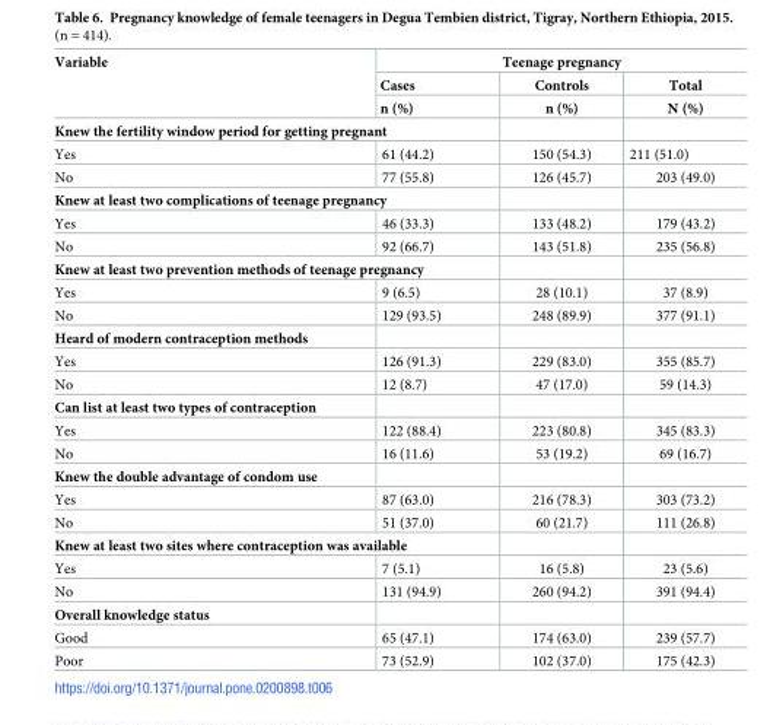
<table><thead><tr><td rowspan="3">Variable</td><td colspan="3">Teenage pregnancy</td></tr><tr><td rowspan="2">Cases n (%)</td><td rowspan="2">Controls n (%)</td><td rowspan="2">Total N (%)</td></tr><tr></tr></thead><tbody><tr><td colspan="4">Knew the fertility window period for getting pregnant</td></tr><tr><td>Yes</td><td>61 (44.2)</td><td>150 (54.3)</td><td>211 (51.0)</td></tr><tr><td>No</td><td>77 (55.8)</td><td>126 (45.7)</td><td>203 (49.0)</td></tr><tr><td colspan="4">Knew at least two complications of teenage pregnancy</td></tr><tr><td>Yes</td><td>46 (33.3)</td><td>133 (48.2)</td><td>179 (43.2)</td></tr><tr><td>No</td><td>92 (66.7)</td><td>143 (51.8)</td><td>235 (56.8)</td></tr><tr><td colspan="4">Knew at least two prevention methods of teenage pregnancy</td></tr><tr><td>Yes</td><td>9 (6.5)</td><td>28 (10.1)</td><td>37 (8.9)</td></tr><tr><td>No</td><td>129 (93.5)</td><td>248 (89.9)</td><td>377 (91.1)</td></tr><tr><td colspan="4">Heard of modern contraception methods</td></tr><tr><td>Yes</td><td>126 (91.3)</td><td>229 (83.0)</td><td>355 (85.7)</td></tr><tr><td>No</td><td>12 (8.7)</td><td>47 (17.0)</td><td>59 (14.3)</td></tr><tr><td colspan="4">Can list at least two types of contraception</td></tr><tr><td>Yes</td><td>122 (88.4)</td><td>223 (80.8)</td><td>345 (83.3)</td></tr><tr><td>No</td><td>16 (11.6)</td><td>53 (19.2)</td><td>69 (16.7)</td></tr><tr><td colspan="4">Knew the double advantage of condom use</td></tr><tr><td>Yes</td><td>87 (63.0)</td><td>216 (78.3)</td><td>303 (73.2)</td></tr><tr><td>No</td><td>51 (37.0)</td><td>60 (21.7)</td><td>111 (26.8)</td></tr><tr><td colspan="4">Knew at least two sites where contraception was available</td></tr><tr><td>Yes</td><td>7 (5.1)</td><td>16 (5.8)</td><td>23 (5.6)</td></tr><tr><td>No</td><td>131 (94.9)</td><td>260 (94.2)</td><td>391 (94.4)</td></tr><tr><td colspan="4">Overall knowledge status</td></tr><tr><td>Good</td><td>65 (47.1)</td><td>174 (63.0)</td><td>239 (57.7)</td></tr><tr><td>Poor</td><td>73 (52.9)</td><td>102 (37.0)</td><td>175 (42.3)</td></tr></tbody></table>